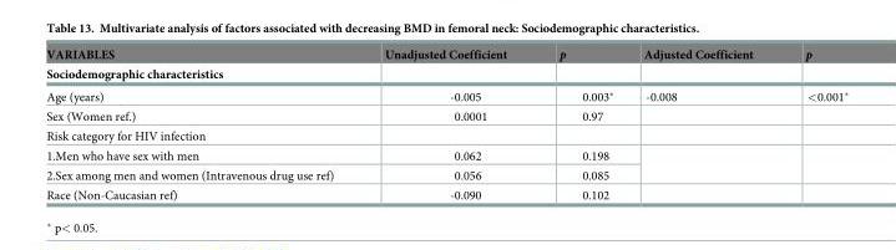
<table><thead><tr><td rowspan="2">VARIABLES Sociodemographic characteristics</td><td rowspan="2">Unadjusted Coefficient</td><td rowspan="2">p</td><td rowspan="2">Adjusted Coefficient</td><td rowspan="2">p</td></tr><tr></tr></thead><tbody><tr><td>Age (years)</td><td>-0.005</td><td>0.003*</td><td>-0.008</td><td>&lt;0.001*</td></tr><tr><td>Sex (Women ref.)</td><td>0.0001</td><td>0.97</td><td></td><td></td></tr><tr><td colspan="5">Risk category for HIV infection</td></tr><tr><td>1.Men who have sex with men</td><td>0.062</td><td>0.198</td><td rowspan="2"></td><td rowspan="2"></td></tr><tr><td>2.Sex among men and women (Intravenous drug use ref)</td><td>0.056</td><td>0.085</td></tr><tr><td>Race (Non-Caucasian ref)</td><td>-0.090</td><td>0.102</td><td></td><td></td></tr></tbody></table>